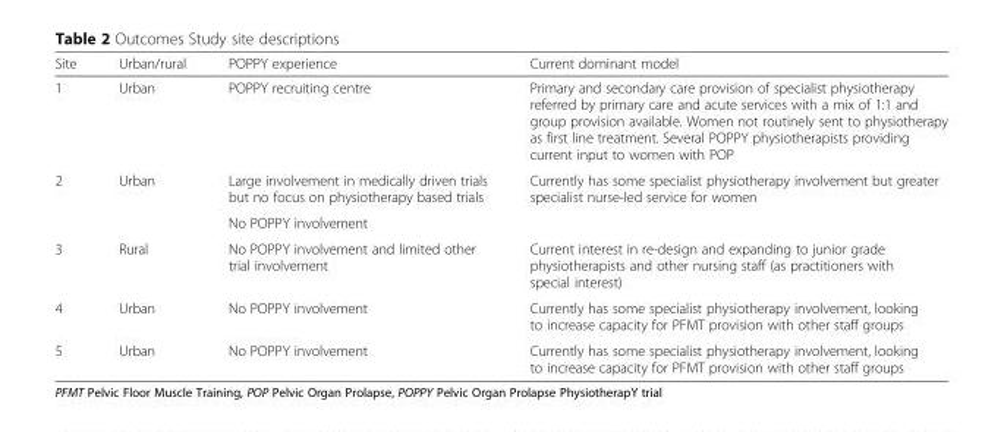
<table><thead><tr><td>Site</td><td>Urban/rural</td><td>POPPY experience</td><td>Current dominant model</td></tr></thead><tbody><tr><td>1</td><td>Urban</td><td>POPPY recruiting centre</td><td>Primary and secondary care provision of specialist physiotherapy referred by primary care and acute services with a mix of 1:1 and group provision available. Women not routinely sent to physiotherapy as first line treatment. Several POPPY physiotherapists providing current input to women with POP</td></tr><tr><td rowspan="2">2</td><td rowspan="2">Urban</td><td>Large involvement in medically driven trials but no focus on physiotherapy based trials</td><td rowspan="2">Currently has some specialist physiotherapy involvement but greater specialist nurse-led service for women</td></tr><tr><td>No POPPY involvement</td></tr><tr><td>3</td><td>Rural</td><td>No POPPY involvement and limited other trial involvement</td><td>Current interest in re-design and expanding to junior grade physiotherapists and other nursing staff (as practitioners with special interest)</td></tr><tr><td>4</td><td>Urban</td><td>No POPPY involvement</td><td>Currently has some specialist physiotherapy involvement, looking to increase capacity for PFMT provision with other staff groups</td></tr><tr><td>5</td><td>Urban</td><td>No POPPY involvement</td><td>Currently has some specialist physiotherapy involvement, looking to increase capacity for PFMT provision with other staff groups</td></tr></tbody></table>